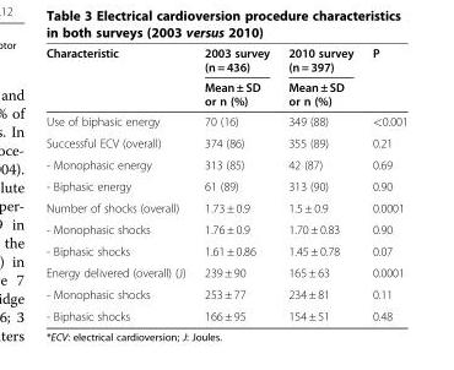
<table><thead><tr><td rowspan="2">Characteristic</td><td rowspan="2">2003 survey (n = 436) Mean ± SD or n (%)</td><td rowspan="2">2010 survey (n = 397) Mean ± SD or n (%)</td><td rowspan="2">P</td></tr><tr></tr></thead><tbody><tr><td>Use of biphasic energy</td><td>70 (16)</td><td>349 (88)</td><td>&lt;0.001</td></tr><tr><td>Successful ECV (overall)</td><td>374 (86)</td><td>355 (89)</td><td>0.21</td></tr><tr><td>- Monophasic energy</td><td>313 (85)</td><td>42 (87)</td><td>0.69</td></tr><tr><td>- Biphasic energy</td><td>61 (89)</td><td>313 (90)</td><td>0.90</td></tr><tr><td>Number of shocks (overall)</td><td>1.73 ± 0.9</td><td>1.5 ± 0.9</td><td>0.0001</td></tr><tr><td>- Monophasic shocks</td><td>1.76 ± 0.9</td><td>1.70 ± 0.83</td><td>0.90</td></tr><tr><td>- Biphasic shocks</td><td>1.61 ± 0.86</td><td>1.45 ± 0.78</td><td>0.07</td></tr><tr><td>Energy delivered (overall) (J)</td><td>239 ± 90</td><td>165 ± 63</td><td>0.0001</td></tr><tr><td>- Monophasic shocks</td><td>253 ± 77</td><td>234 ± 81</td><td>0.11</td></tr><tr><td>- Biphasic shocks</td><td>166 ± 95</td><td>154 ± 51</td><td>0.48</td></tr></tbody></table>